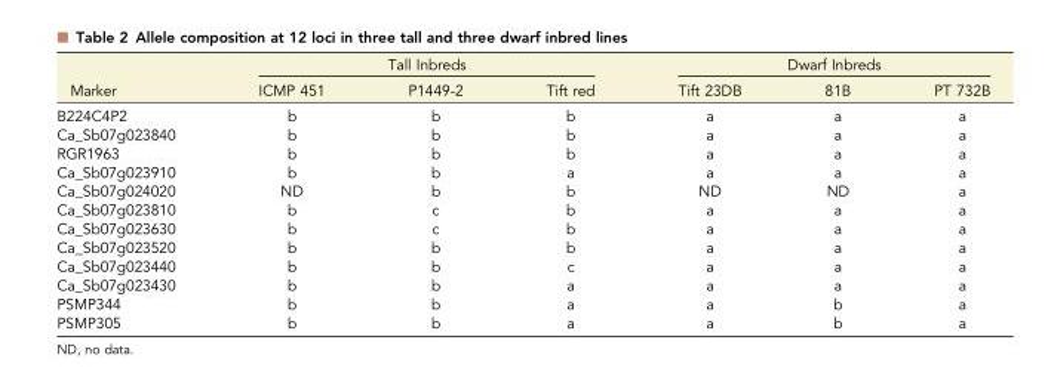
<table><thead><tr><td rowspan="2">Marker</td><td colspan="3">Tall Inbreds</td><td colspan="3">Dwarf Inbreds</td></tr><tr><td>ICMP 451</td><td>P1449-2</td><td>Tift red</td><td>Tift 23DB</td><td>81B</td><td>PT 732B</td></tr></thead><tbody><tr><td>B224C4P2</td><td>b</td><td>b</td><td>b</td><td>a</td><td>a</td><td>a</td></tr><tr><td>Ca_Sb07g023840</td><td>b</td><td>b</td><td>b</td><td>a</td><td>a</td><td>a</td></tr><tr><td>RGR1963</td><td>b</td><td>b</td><td>b</td><td>a</td><td>a</td><td>a</td></tr><tr><td>Ca_Sb07g023910</td><td>b</td><td>b</td><td>a</td><td>a</td><td>a</td><td>a</td></tr><tr><td>Ca_Sb07g024020</td><td>ND</td><td>b</td><td>b</td><td>ND</td><td>ND</td><td>a</td></tr><tr><td>Ca_Sb07g023810</td><td>b</td><td>c</td><td>b</td><td>a</td><td>a</td><td>a</td></tr><tr><td>Ca_Sb07g023630</td><td>b</td><td>c</td><td>b</td><td>a</td><td>a</td><td>a</td></tr><tr><td>Ca_Sb07g023520</td><td>b</td><td>b</td><td>b</td><td>a</td><td>a</td><td>a</td></tr><tr><td>Ca_Sb07g023440</td><td>b</td><td>b</td><td>c</td><td>a</td><td>a</td><td>a</td></tr><tr><td>Ca_Sb07g023430</td><td>b</td><td>b</td><td>a</td><td>a</td><td>a</td><td>a</td></tr><tr><td>PSMP344</td><td>b</td><td>b</td><td>a</td><td>a</td><td>b</td><td>a</td></tr><tr><td>PSMP305</td><td>b</td><td>b</td><td>a</td><td>a</td><td>b</td><td>a</td></tr></tbody></table>